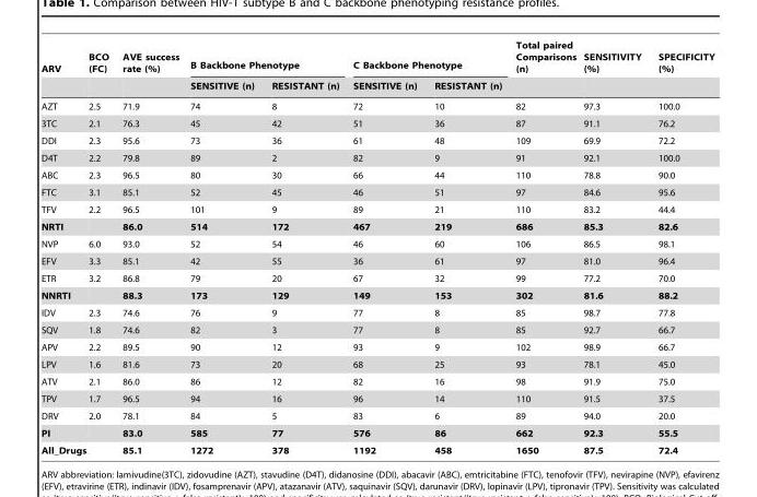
<table><thead><tr><td rowspan="2">ARV</td><td rowspan="2">BCO (FC)</td><td rowspan="2">AVE success rate (%)</td><td colspan="2">B Backbone Phenotype</td><td colspan="2">C Backbone Phenotype</td><td rowspan="2">Total paired Comparisons (n)</td><td rowspan="2">SENSITIVITY (%)</td><td rowspan="2">SPECIFICITY (%)</td></tr><tr><td>SENSITIVE (n)</td><td>RESISTANT (n)</td><td>SENSITIVE (n)</td><td>RESISTANT (n)</td></tr></thead><tbody><tr><td>AZT</td><td>2.5</td><td>71.9</td><td>74</td><td>8</td><td>72</td><td>10</td><td>82</td><td>97.3</td><td>100.0</td></tr><tr><td>3TC</td><td>2.1</td><td>76.3</td><td>45</td><td>42</td><td>51</td><td>36</td><td>87</td><td>91.1</td><td>76.2</td></tr><tr><td>DDI</td><td>2.3</td><td>95.6</td><td>73</td><td>36</td><td>61</td><td>48</td><td>109</td><td>69.9</td><td>72.2</td></tr><tr><td>D4T</td><td>2.2</td><td>79.8</td><td>89</td><td>2</td><td>82</td><td>9</td><td>91</td><td>92.1</td><td>100.0</td></tr><tr><td>ABC</td><td>2.3</td><td>96.5</td><td>80</td><td>30</td><td>66</td><td>44</td><td>110</td><td>78.8</td><td>90.0</td></tr><tr><td>FTC</td><td>3.1</td><td>85.1</td><td>52</td><td>45</td><td>46</td><td>51</td><td>97</td><td>84.6</td><td>95.6</td></tr><tr><td>TFV</td><td>2.2</td><td>96.5</td><td>101</td><td>9</td><td>89</td><td>21</td><td>110</td><td>83.2</td><td>44.4</td></tr><tr><td>NRTI</td><td></td><td>86.0</td><td>514</td><td>172</td><td>467</td><td>219</td><td>686</td><td>85.3</td><td>82.6</td></tr><tr><td>NVP</td><td>6.0</td><td>93.0</td><td>52</td><td>54</td><td>46</td><td>60</td><td>106</td><td>86.5</td><td>98.1</td></tr><tr><td>EFV</td><td>3.3</td><td>85.1</td><td>42</td><td>55</td><td>36</td><td>61</td><td>97</td><td>81.0</td><td>96.4</td></tr><tr><td>ETR</td><td>3.2</td><td>86.8</td><td>79</td><td>20</td><td>67</td><td>32</td><td>99</td><td>77.2</td><td>70.0</td></tr><tr><td>NNRTI</td><td></td><td>88.3</td><td>173</td><td>129</td><td>149</td><td>153</td><td>302</td><td>81.6</td><td>88.2</td></tr><tr><td>IDV</td><td>2.3</td><td>74.6</td><td>76</td><td>9</td><td>77</td><td>8</td><td>85</td><td>98.7</td><td>77.8</td></tr><tr><td>SQV</td><td>1.8</td><td>74.6</td><td>82</td><td>3</td><td>77</td><td>8</td><td>85</td><td>92.7</td><td>66.7</td></tr><tr><td>APV</td><td>2.2</td><td>89.5</td><td>90</td><td>12</td><td>93</td><td>9</td><td>102</td><td>98.9</td><td>66.7</td></tr><tr><td>LPV</td><td>1.6</td><td>81.6</td><td>73</td><td>20</td><td>68</td><td>25</td><td>93</td><td>78.1</td><td>45.0</td></tr><tr><td>ATV</td><td>2.1</td><td>86.0</td><td>86</td><td>12</td><td>82</td><td>16</td><td>98</td><td>91.9</td><td>75.0</td></tr><tr><td>TPV</td><td>1.7</td><td>96.5</td><td>94</td><td>16</td><td>96</td><td>14</td><td>110</td><td>91.5</td><td>37.5</td></tr><tr><td>DRV</td><td>2.0</td><td>78.1</td><td>84</td><td>5</td><td>83</td><td>6</td><td>89</td><td>94.0</td><td>20.0</td></tr><tr><td>PI</td><td></td><td>83.0</td><td>585</td><td>77</td><td>576</td><td>86</td><td>662</td><td>92.3</td><td>55.5</td></tr><tr><td>All_Drugs</td><td></td><td>85.1</td><td>1272</td><td>378</td><td>1192</td><td>458</td><td>1650</td><td>87.5</td><td>72.4</td></tr></tbody></table>